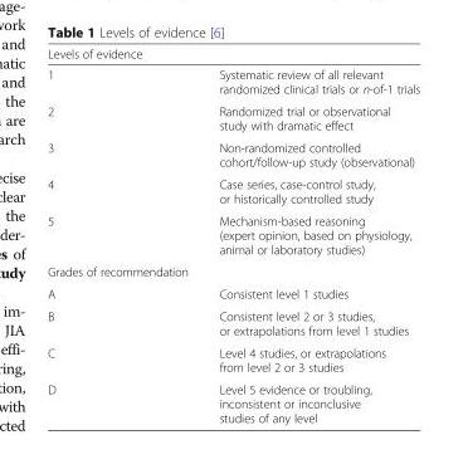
<table><thead><tr><td colspan="2">Levels of evidence</td></tr><tr><td>1</td><td>Systematic review of all relevant randomized clinical trials or n-of-1 trials</td></tr></thead><tbody><tr><td>2</td><td>Randomized trial or observational study with dramatic effect</td></tr><tr><td>3</td><td>Non-randomized controlled cohort/follow-up study (observational)</td></tr><tr><td>4</td><td>Case series, case-control study, or historically controlled study</td></tr><tr><td>5</td><td>Mechanism-based reasoning (expert opinion, based on physiology, animal or laboratory studies)</td></tr><tr><td colspan="2">Grades of recommendation</td></tr><tr><td>A</td><td>Consistent level 1 studies</td></tr><tr><td>B</td><td>Consistent level 2 or 3 studies, or extrapolations from level 1 studies</td></tr><tr><td>C</td><td>Level 4 studies, or extrapolations from level 2 or 3 studies</td></tr><tr><td>D</td><td>Level 5 evidence or troubling, inconsistent or inconclusive studies of any level</td></tr></tbody></table>